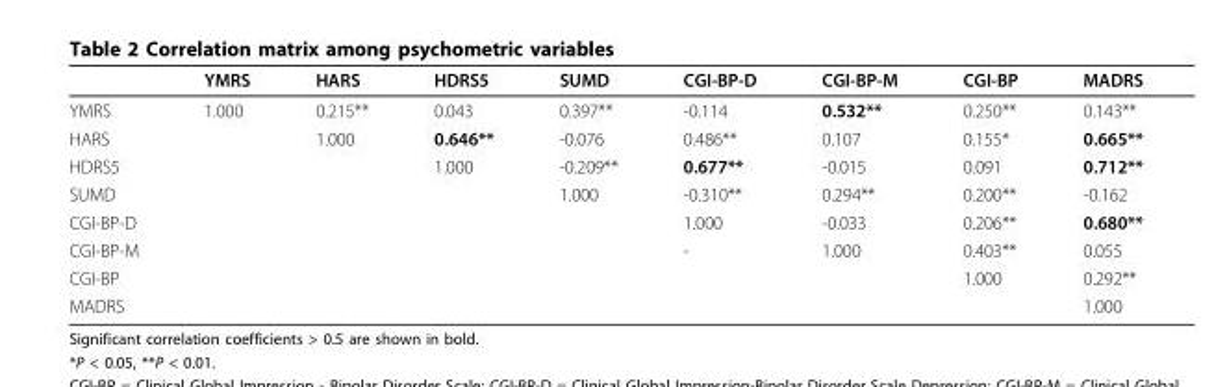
<table><thead><tr><td></td><td>YMRS</td><td>HARS</td><td>HDRS5</td><td>SUMD</td><td>CGI-BP-D</td><td>CGI-BP-M</td><td>CGI-BP</td><td>MADRS</td></tr></thead><tbody><tr><td>YMRS</td><td>1.000</td><td>0.215**</td><td>0.043</td><td>0.397**</td><td>-0.114</td><td>0.532**</td><td>0.250**</td><td>0.143**</td></tr><tr><td>HARS</td><td></td><td>1.000</td><td>0.646**</td><td>-0.076</td><td>0.486**</td><td>0.107</td><td>0.155*</td><td>0.665**</td></tr><tr><td>HDRS5</td><td></td><td></td><td>1.000</td><td>-0.209**</td><td>0.677**</td><td>-0.015</td><td>0.091</td><td>0.712**</td></tr><tr><td>SUMD</td><td></td><td></td><td></td><td>1.000</td><td>-0.310**</td><td>0.294**</td><td>0.200**</td><td>-0.162</td></tr><tr><td>CGI-BP-D</td><td></td><td></td><td></td><td></td><td>1.000</td><td>-0.033</td><td>0.206**</td><td>0.680**</td></tr><tr><td>CGI-BP-M</td><td></td><td></td><td></td><td></td><td>-</td><td>1.000</td><td>0.403**</td><td>0.055</td></tr><tr><td>CGI-BP</td><td></td><td></td><td></td><td></td><td></td><td></td><td>1.000</td><td>0.292**</td></tr><tr><td>MADRS</td><td></td><td></td><td></td><td></td><td></td><td></td><td></td><td>1.000</td></tr></tbody></table>